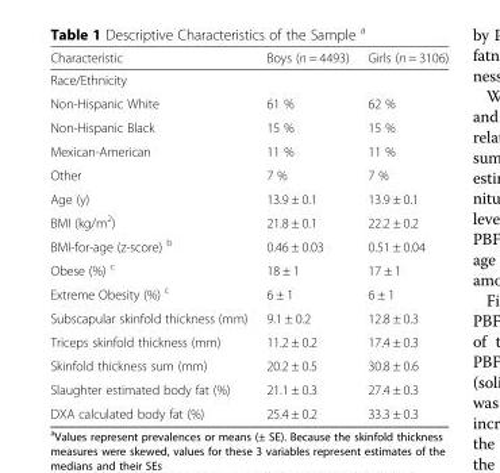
<table><thead><tr><td>Characteristic</td><td>Boys (n = 4493)</td><td>Girls (n = 3106)</td></tr></thead><tbody><tr><td colspan="3">Race/Ethnicity</td></tr><tr><td>Non-Hispanic White</td><td>61 %</td><td>62 %</td></tr><tr><td>Non-Hispanic Black</td><td>15 %</td><td>15 %</td></tr><tr><td>Mexican-American</td><td>11 %</td><td>11 %</td></tr><tr><td>Other</td><td>7 %</td><td>7 %</td></tr><tr><td>Age (y)</td><td>13.9 ± 0.1</td><td>13.9 ± 0.1</td></tr><tr><td>BMI (kg/m<sup>2</sup>)</td><td>21.8 ± 0.1</td><td>22.2 ± 0.2</td></tr><tr><td>BMI-for-age (z-score) <sup>b</sup></td><td>0.46 ± 0.03</td><td>0.51 ± 0.04</td></tr><tr><td>Obese (%) <sup>c</sup></td><td>18 ± 1</td><td>17 ± 1</td></tr><tr><td>Extreme Obesity (%) <sup>c</sup></td><td>6 ± 1</td><td>6 ± 1</td></tr><tr><td>Subscapular skinfold thickness (mm)</td><td>9.1 ± 0.2</td><td>12.8 ± 0.3</td></tr><tr><td>Triceps skinfold thickness (mm)</td><td>11.2 ± 0.2</td><td>17.4 ± 0.3</td></tr><tr><td>Skinfold thickness sum (mm)</td><td>20.2 ± 0.5</td><td>30.8 ± 0.6</td></tr><tr><td>Slaughter estimated body fat (%)</td><td>21.1 ± 0.3</td><td>27.4 ± 0.3</td></tr><tr><td>DXA calculated body fat (%)</td><td>25.4 ± 0.2</td><td>33.3 ± 0.3</td></tr></tbody></table>